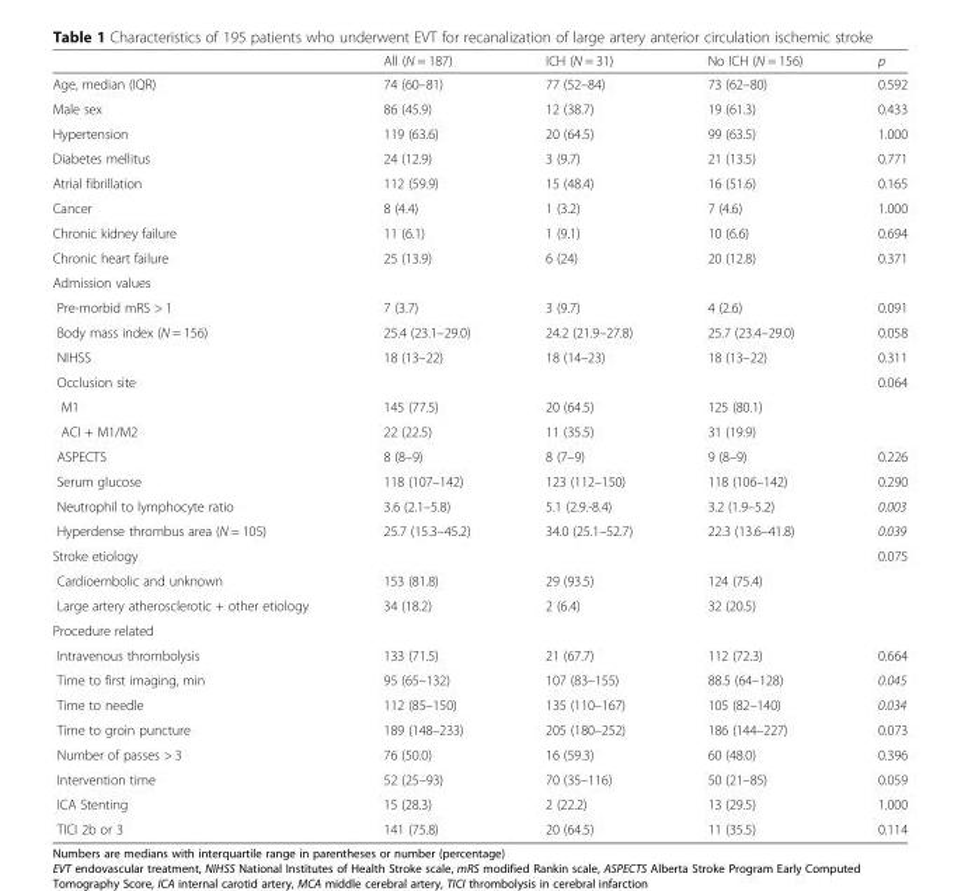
<table><thead><tr><td></td><td>All (N = 187)</td><td>ICH (N = 31)</td><td>No ICH (N = 156)</td><td>p</td></tr></thead><tbody><tr><td>Age, median (IQR)</td><td>74 (60–81)</td><td>77 (52–84)</td><td>73 (62–80)</td><td>0.592</td></tr><tr><td>Male sex</td><td>86 (45.9)</td><td>12 (38.7)</td><td>19 (61.3)</td><td>0.433</td></tr><tr><td>Hypertension</td><td>119 (63.6)</td><td>20 (64.5)</td><td>99 (63.5)</td><td>1.000</td></tr><tr><td>Diabetes mellitus</td><td>24 (12.9)</td><td>3 (9.7)</td><td>21 (13.5)</td><td>0.771</td></tr><tr><td>Atrial fibrillation</td><td>112 (59.9)</td><td>15 (48.4)</td><td>16 (51.6)</td><td>0.165</td></tr><tr><td>Cancer</td><td>8 (4.4)</td><td>1 (3.2)</td><td>7 (4.6)</td><td>1.000</td></tr><tr><td>Chronic kidney failure</td><td>11 (6.1)</td><td>1 (9.1)</td><td>10 (6.6)</td><td>0.694</td></tr><tr><td>Chronic heart failure</td><td>25 (13.9)</td><td>6 (24)</td><td>20 (12.8)</td><td>0.371</td></tr><tr><td colspan="5">Admission values</td></tr><tr><td>Pre-morbid mRS &gt; 1</td><td>7 (3.7)</td><td>3 (9.7)</td><td>4 (2.6)</td><td>0.091</td></tr><tr><td>Body mass index (N = 156)</td><td>25.4 (23.1–29.0)</td><td>24.2 (21.9–27.8)</td><td>25.7 (23.4–29.0)</td><td>0.058</td></tr><tr><td>NIHSS</td><td>18 (13–22)</td><td>18 (14–23)</td><td>18 (13–22)</td><td>0.311</td></tr><tr><td>Occlusion site</td><td></td><td></td><td></td><td>0.064</td></tr><tr><td>M1</td><td>145 (77.5)</td><td>20 (64.5)</td><td>125 (80.1)</td><td></td></tr><tr><td>ACI + M1/M2</td><td>22 (22.5)</td><td>11 (35.5)</td><td>31 (19.9)</td><td></td></tr><tr><td>ASPECTS</td><td>8 (8–9)</td><td>8 (7–9)</td><td>9 (8–9)</td><td>0.226</td></tr><tr><td>Serum glucose</td><td>118 (107–142)</td><td>123 (112–150)</td><td>118 (106–142)</td><td>0.290</td></tr><tr><td>Neutrophil to lymphocyte ratio</td><td>3.6 (2.1–5.8)</td><td>5.1 (2.9.-8.4)</td><td>3.2 (1.9–5.2)</td><td>0.003</td></tr><tr><td>Hyperdense thrombus area (N = 105)</td><td>25.7 (15.3–45.2)</td><td>34.0 (25.1–52.7)</td><td>22.3 (13.6–41.8)</td><td>0.039</td></tr><tr><td>Stroke etiology</td><td></td><td></td><td></td><td>0.075</td></tr><tr><td>Cardioembolic and unknown</td><td>153 (81.8)</td><td>29 (93.5)</td><td>124 (75.4)</td><td></td></tr><tr><td>Large artery atherosclerotic + other etiology</td><td>34 (18.2)</td><td>2 (6.4)</td><td>32 (20.5)</td><td></td></tr><tr><td colspan="5">Procedure related</td></tr><tr><td>Intravenous thrombolysis</td><td>133 (71.5)</td><td>21 (67.7)</td><td>112 (72.3)</td><td>0.664</td></tr><tr><td>Time to first imaging, min</td><td>95 (65–132)</td><td>107 (83–155)</td><td>88.5 (64–128)</td><td>0.045</td></tr><tr><td>Time to needle</td><td>112 (85–150)</td><td>135 (110–167)</td><td>105 (82–140)</td><td>0.034</td></tr><tr><td>Time to groin puncture</td><td>189 (148–233)</td><td>205 (180–252)</td><td>186 (144–227)</td><td>0.073</td></tr><tr><td>Number of passes &gt; 3</td><td>76 (50.0)</td><td>16 (59.3)</td><td>60 (48.0)</td><td>0.396</td></tr><tr><td>Intervention time</td><td>52 (25–93)</td><td>70 (35–116)</td><td>50 (21–85)</td><td>0.059</td></tr><tr><td>ICA Stenting</td><td>15 (28.3)</td><td>2 (22.2)</td><td>13 (29.5)</td><td>1.000</td></tr><tr><td>TICI 2b or 3</td><td>141 (75.8)</td><td>20 (64.5)</td><td>11 (35.5)</td><td>0.114</td></tr></tbody></table>